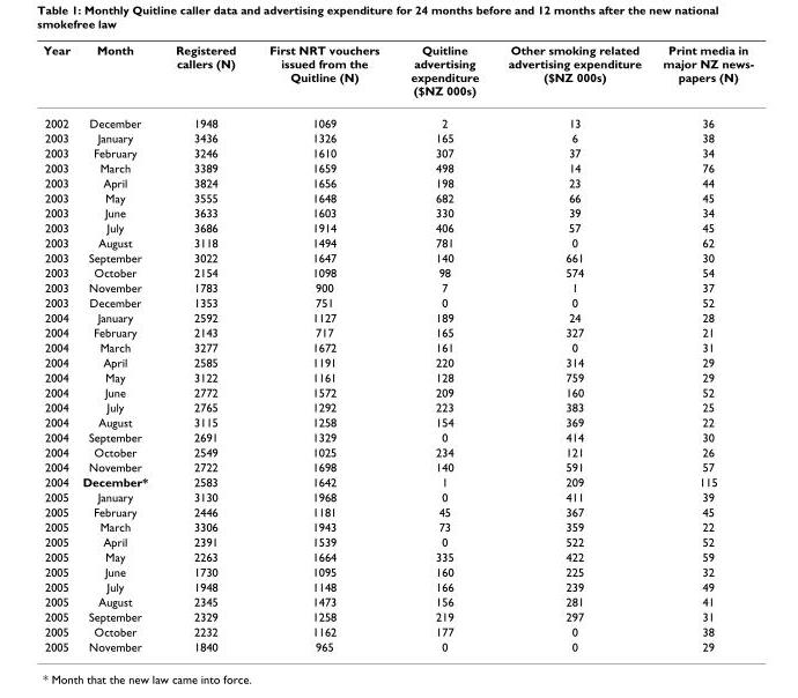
<table><thead><tr><td>Year</td><td>Month</td><td>Registered callers (N)</td><td>First NRT vouchers issued from the Quitline (N)</td><td>Quitline advertising expenditure ($NZ 000s)</td><td>Other smoking related advertising expenditure ($NZ 000s)</td><td>Print media in major NZ news- papers (N)</td></tr></thead><tbody><tr><td>2002</td><td>December</td><td>1948</td><td>1069</td><td>2</td><td>13</td><td>36</td></tr><tr><td>2003</td><td>January</td><td>3436</td><td>1326</td><td>165</td><td>6</td><td>38</td></tr><tr><td>2003</td><td>February</td><td>3246</td><td>1610</td><td>307</td><td>37</td><td>34</td></tr><tr><td>2003</td><td>March</td><td>3389</td><td>1659</td><td>498</td><td>14</td><td>76</td></tr><tr><td>2003</td><td>April</td><td>3824</td><td>1656</td><td>198</td><td>23</td><td>44</td></tr><tr><td>2003</td><td>May</td><td>3555</td><td>1648</td><td>682</td><td>66</td><td>45</td></tr><tr><td>2003</td><td>June</td><td>3633</td><td>1603</td><td>330</td><td>39</td><td>34</td></tr><tr><td>2003</td><td>July</td><td>3686</td><td>1914</td><td>406</td><td>57</td><td>45</td></tr><tr><td>2003</td><td>August</td><td>3118</td><td>1494</td><td>781</td><td>0</td><td>62</td></tr><tr><td>2003</td><td>September</td><td>3022</td><td>1647</td><td>140</td><td>661</td><td>30</td></tr><tr><td>2003</td><td>October</td><td>2154</td><td>1098</td><td>98</td><td>574</td><td>54</td></tr><tr><td>2003</td><td>November</td><td>1783</td><td>900</td><td>7</td><td>1</td><td>37</td></tr><tr><td>2003</td><td>December</td><td>1353</td><td>751</td><td>0</td><td>0</td><td>52</td></tr><tr><td>2004</td><td>January</td><td>2592</td><td>1127</td><td>189</td><td>24</td><td>28</td></tr><tr><td>2004</td><td>February</td><td>2143</td><td>717</td><td>165</td><td>327</td><td>21</td></tr><tr><td>2004</td><td>March</td><td>3277</td><td>1672</td><td>161</td><td>0</td><td>31</td></tr><tr><td>2004</td><td>April</td><td>2585</td><td>1191</td><td>220</td><td>314</td><td>29</td></tr><tr><td>2004</td><td>May</td><td>3122</td><td>1161</td><td>128</td><td>759</td><td>29</td></tr><tr><td>2004</td><td>June</td><td>2772</td><td>1572</td><td>209</td><td>160</td><td>52</td></tr><tr><td>2004</td><td>July</td><td>2765</td><td>1292</td><td>223</td><td>383</td><td>25</td></tr><tr><td>2004</td><td>August</td><td>3115</td><td>1258</td><td>154</td><td>369</td><td>22</td></tr><tr><td>2004</td><td>September</td><td>2691</td><td>1329</td><td>0</td><td>414</td><td>30</td></tr><tr><td>2004</td><td>October</td><td>2549</td><td>1025</td><td>234</td><td>121</td><td>26</td></tr><tr><td>2004</td><td>November</td><td>2722</td><td>1698</td><td>140</td><td>591</td><td>57</td></tr><tr><td>2004</td><td>December*</td><td>2583</td><td>1642</td><td>1</td><td>209</td><td>115</td></tr><tr><td>2005</td><td>January</td><td>3130</td><td>1968</td><td>0</td><td>411</td><td>39</td></tr><tr><td>2005</td><td>February</td><td>2446</td><td>1181</td><td>45</td><td>367</td><td>45</td></tr><tr><td>2005</td><td>March</td><td>3306</td><td>1943</td><td>73</td><td>359</td><td>22</td></tr><tr><td>2005</td><td>April</td><td>2391</td><td>1539</td><td>0</td><td>522</td><td>52</td></tr><tr><td>2005</td><td>May</td><td>2263</td><td>1664</td><td>335</td><td>422</td><td>59</td></tr><tr><td>2005</td><td>June</td><td>1730</td><td>1095</td><td>160</td><td>225</td><td>32</td></tr><tr><td>2005</td><td>July</td><td>1948</td><td>1148</td><td>166</td><td>239</td><td>49</td></tr><tr><td>2005</td><td>August</td><td>2345</td><td>1473</td><td>156</td><td>281</td><td>41</td></tr><tr><td>2005</td><td>September</td><td>2329</td><td>1258</td><td>219</td><td>297</td><td>31</td></tr><tr><td>2005</td><td>October</td><td>2232</td><td>1162</td><td>177</td><td>0</td><td>38</td></tr><tr><td>2005</td><td>November</td><td>1840</td><td>965</td><td>0</td><td>0</td><td>29</td></tr></tbody></table>